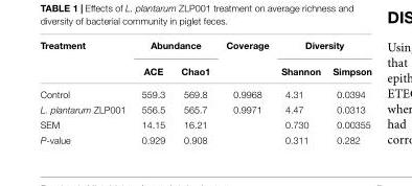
<table><thead><tr><td rowspan="2">Treatment</td><td colspan="2">Abundance</td><td rowspan="2">Coverage</td><td colspan="2">Diversity</td></tr><tr><td>ACE</td><td>Chao1</td><td>Shannon</td><td>Simpson</td></tr></thead><tbody><tr><td>Control</td><td>559.3</td><td>569.8</td><td>0.9968</td><td>4.31</td><td>0.0394</td></tr><tr><td>L. plantarum ZLP001</td><td>556.5</td><td>565.7</td><td>0.9971</td><td>4.47</td><td>0.0313</td></tr><tr><td>SEM</td><td>14.15</td><td>16.21</td><td></td><td>0.730</td><td>0.00355</td></tr><tr><td>P-value</td><td>0.929</td><td>0.908</td><td></td><td>0.311</td><td>0.282</td></tr></tbody></table>